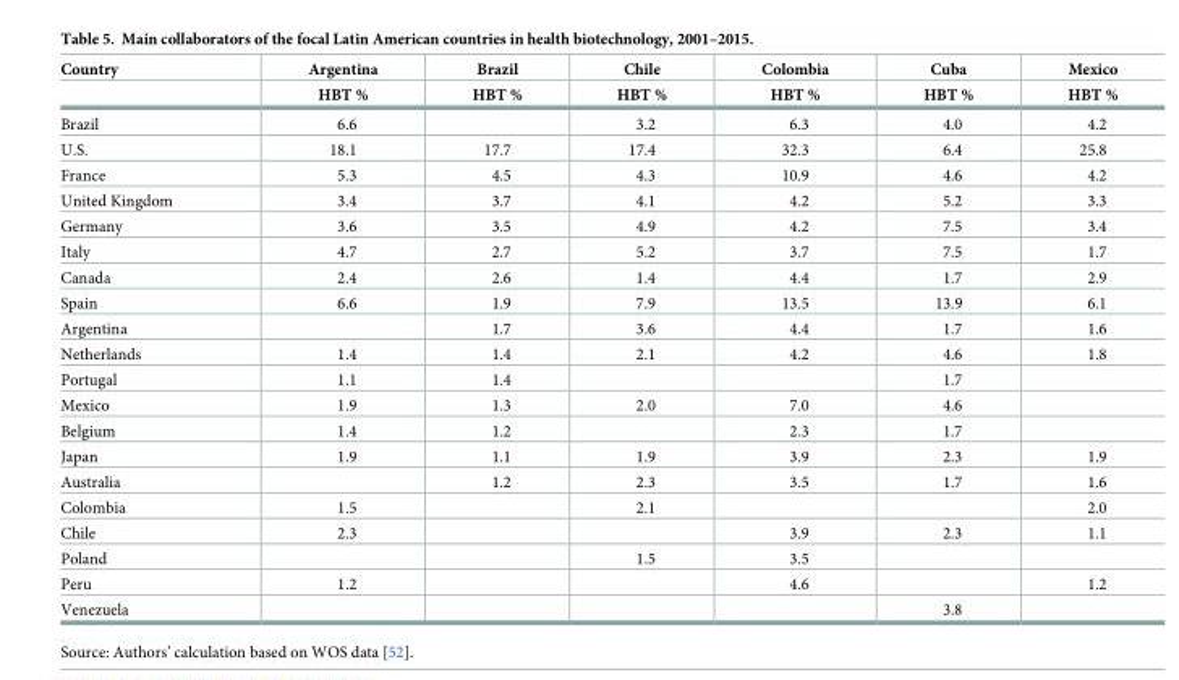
<table><thead><tr><td rowspan="2">Country</td><td rowspan="2">Argentina HBT %</td><td rowspan="2">Brazil HBT %</td><td rowspan="2">Chile HBT %</td><td rowspan="2">Colombia HBT %</td><td rowspan="2">Cuba HBT %</td><td rowspan="2">Mexico HBT %</td></tr><tr></tr></thead><tbody><tr><td>Brazil</td><td>6.6</td><td></td><td>3.2</td><td>6.3</td><td>4.0</td><td>4.2</td></tr><tr><td>U.S.</td><td>18.1</td><td>17.7</td><td>17.4</td><td>32.3</td><td>6.4</td><td>25.8</td></tr><tr><td>France</td><td>5.3</td><td>4.5</td><td>4.3</td><td>10.9</td><td>4.6</td><td>4.2</td></tr><tr><td>United Kingdom</td><td>3.4</td><td>3.7</td><td>4.1</td><td>4.2</td><td>5.2</td><td>3.3</td></tr><tr><td>Germany</td><td>3.6</td><td>3.5</td><td>4.9</td><td>4.2</td><td>7.5</td><td>3.4</td></tr><tr><td>Italy</td><td>4.7</td><td>2.7</td><td>5.2</td><td>3.7</td><td>7.5</td><td>1.7</td></tr><tr><td>Canada</td><td>2.4</td><td>2.6</td><td>1.4</td><td>4.4</td><td>1.7</td><td>2.9</td></tr><tr><td>Spain</td><td>6.6</td><td>1.9</td><td>7.9</td><td>13.5</td><td>13.9</td><td>6.1</td></tr><tr><td>Argentina</td><td></td><td>1.7</td><td>3.6</td><td>4.4</td><td>1.7</td><td>1.6</td></tr><tr><td>Netherlands</td><td>1.4</td><td>1.4</td><td>2.1</td><td>4.2</td><td>4.6</td><td>1.8</td></tr><tr><td>Portugal</td><td>1.1</td><td>1.4</td><td></td><td></td><td>1.7</td><td></td></tr><tr><td>Mexico</td><td>1.9</td><td>1.3</td><td>2.0</td><td>7.0</td><td>4.6</td><td></td></tr><tr><td>Belgium</td><td>1.4</td><td>1.2</td><td></td><td>2.3</td><td>1.7</td><td></td></tr><tr><td>Japan</td><td>1.9</td><td>1.1</td><td>1.9</td><td>3.9</td><td>2.3</td><td>1.9</td></tr><tr><td>Australia</td><td></td><td>1.2</td><td>2.3</td><td>3.5</td><td>1.7</td><td>1.6</td></tr><tr><td>Colombia</td><td>1.5</td><td></td><td>2.1</td><td></td><td></td><td>2.0</td></tr><tr><td>Chile</td><td>2.3</td><td></td><td></td><td>3.9</td><td>2.3</td><td>1.1</td></tr><tr><td>Poland</td><td></td><td></td><td>1.5</td><td>3.5</td><td></td><td></td></tr><tr><td>Peru</td><td>1.2</td><td></td><td></td><td>4.6</td><td></td><td>1.2</td></tr><tr><td>Venezuela</td><td></td><td></td><td></td><td></td><td>3.8</td><td></td></tr></tbody></table>